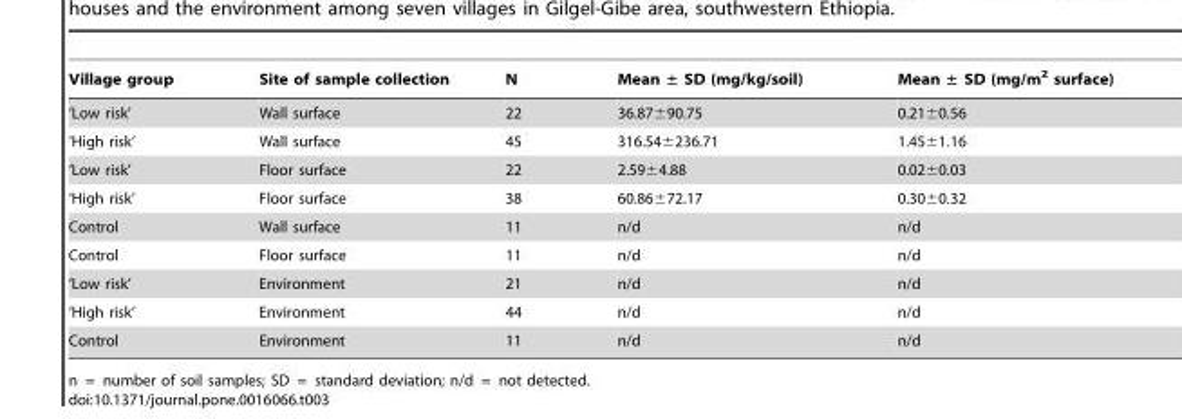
<table><thead><tr><td>Village group</td><td>Site of sample collection</td><td>N</td><td>Mean ± SD (mg/kg/soil)</td><td>Mean ± SD (mg/m<sup>2</sup> surface)</td></tr></thead><tbody><tr><td>‘Low risk’</td><td>Wall surface</td><td>22</td><td>36.87±90.75</td><td>0.21±0.56</td></tr><tr><td>‘High risk’</td><td>Wall surface</td><td>45</td><td>316.54±236.71</td><td>1.45±1.16</td></tr><tr><td>‘Low risk’</td><td>Floor surface</td><td>22</td><td>2.59±4.88</td><td>0.02±0.03</td></tr><tr><td>‘High risk’</td><td>Floor surface</td><td>38</td><td>60.86±72.17</td><td>0.30±0.32</td></tr><tr><td>Control</td><td>Wall surface</td><td>11</td><td>n/d</td><td>n/d</td></tr><tr><td>Control</td><td>Floor surface</td><td>11</td><td>n/d</td><td>n/d</td></tr><tr><td>‘Low risk’</td><td>Environment</td><td>21</td><td>n/d</td><td>n/d</td></tr><tr><td>‘High risk’</td><td>Environment</td><td>44</td><td>n/d</td><td>n/d</td></tr><tr><td>Control</td><td>Environment</td><td>11</td><td>n/d</td><td>n/d</td></tr></tbody></table>